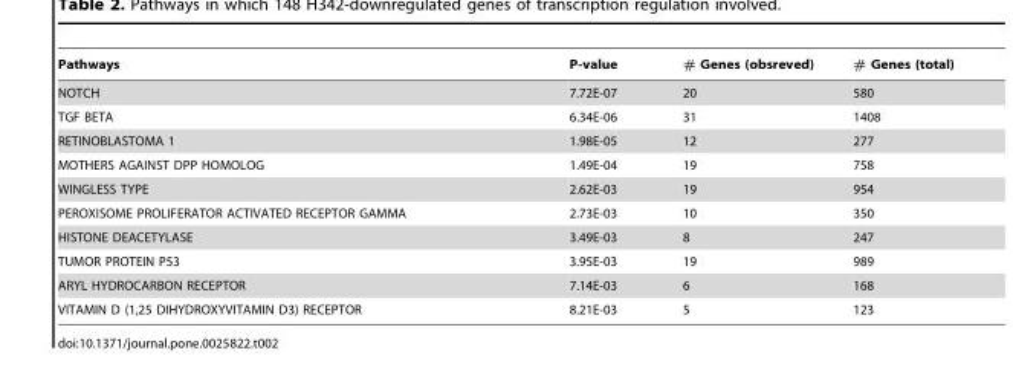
<table><thead><tr><td>Pathways</td><td>P-value</td><td># Genes (obsreved)</td><td># Genes (total)</td></tr></thead><tbody><tr><td>NOTCH</td><td>7.72E-07</td><td>20</td><td>580</td></tr><tr><td>TGF BETA</td><td>6.34E-06</td><td>31</td><td>1408</td></tr><tr><td>RETINOBLASTOMA 1</td><td>1.98E-05</td><td>12</td><td>277</td></tr><tr><td>MOTHERS AGAINST DPP HOMOLOG</td><td>1.49E-04</td><td>19</td><td>758</td></tr><tr><td>WINGLESS TYPE</td><td>2.62E-03</td><td>19</td><td>954</td></tr><tr><td>PEROXISOME PROLIFERATOR ACTIVATED RECEPTOR GAMMA</td><td>2.73E-03</td><td>10</td><td>350</td></tr><tr><td>HISTONE DEACETYLASE</td><td>3.49E-03</td><td>8</td><td>247</td></tr><tr><td>TUMOR PROTEIN P53</td><td>3.95E-03</td><td>19</td><td>989</td></tr><tr><td>ARYL HYDROCARBON RECEPTOR</td><td>7.14E-03</td><td>6</td><td>168</td></tr><tr><td>VITAMIN D (1,25 DIHYDROXYVITAMIN D3) RECEPTOR</td><td>8.21E-03</td><td>5</td><td>123</td></tr></tbody></table>